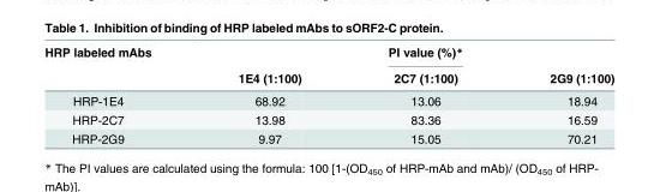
<table><thead><tr><td rowspan="2">HRP labeled mAbs</td><td rowspan="2">1E4 (1:100)</td><td rowspan="2">PI value (%)* 2C7 (1:100)</td><td rowspan="2">2G9 (1:100)</td></tr><tr></tr></thead><tbody><tr><td>HRP-1E4</td><td>68.92</td><td>13.06</td><td>18.94</td></tr><tr><td>HRP-2C7</td><td>13.98</td><td>83.36</td><td>16.59</td></tr><tr><td>HRP-2G9</td><td>9.97</td><td>15.05</td><td>70.21</td></tr></tbody></table>